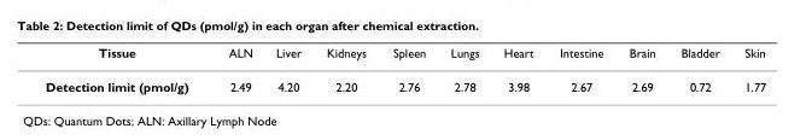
<table><thead><tr><td>Tissue</td><td>ALN</td><td>Liver</td><td>Kidneys</td><td>Spleen</td><td>Lungs</td><td>Heart</td><td>Intestine</td><td>Brain</td><td>Bladder</td><td>Skin</td></tr></thead><tbody><tr><td>Detection limit (pmol/g)</td><td>2.49</td><td>4.20</td><td>2.20</td><td>2.76</td><td>2.78</td><td>3.98</td><td>2.67</td><td>2.69</td><td>0.72</td><td>1.77</td></tr></tbody></table>